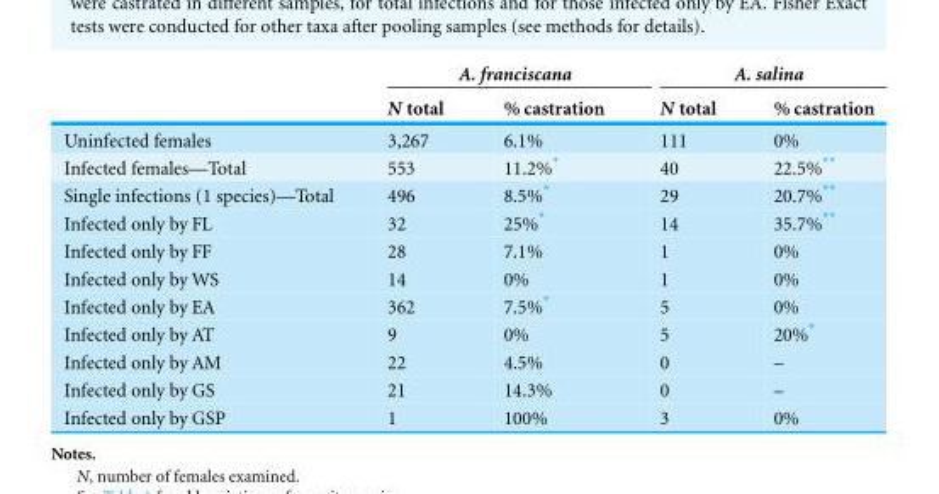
<table><thead><tr><td rowspan="2"></td><td colspan="2">A. franciscana</td><td colspan="2">A. salina</td></tr><tr><td>N total</td><td>% castration</td><td>N total</td><td>% castration</td></tr></thead><tbody><tr><td>Uninfected females</td><td>3,267</td><td>6.1%</td><td>111</td><td>0%</td></tr><tr><td>Infected females—Total</td><td>553</td><td>11.2%*</td><td>40</td><td>22.5%**</td></tr><tr><td>Single infections (1 species)—Total</td><td>496</td><td>8.5%*</td><td>29</td><td>20.7%**</td></tr><tr><td>Infected only by FL</td><td>32</td><td>25%*</td><td>14</td><td>35.7%**</td></tr><tr><td>Infected only by FF</td><td>28</td><td>7.1%</td><td>1</td><td>0%</td></tr><tr><td>Infected only by WS</td><td>14</td><td>0%</td><td>1</td><td>0%</td></tr><tr><td>Infected only by EA</td><td>362</td><td>7.5%*</td><td>5</td><td>0%</td></tr><tr><td>Infected only by AT</td><td>9</td><td>0%</td><td>5</td><td>20%*</td></tr><tr><td>Infected only by AM</td><td>22</td><td>4.5%</td><td>0</td><td>–</td></tr><tr><td>Infected only by GS</td><td>21</td><td>14.3%</td><td>0</td><td>–</td></tr><tr><td>Infected only by GSP</td><td>1</td><td>100%</td><td>3</td><td>0%</td></tr></tbody></table>